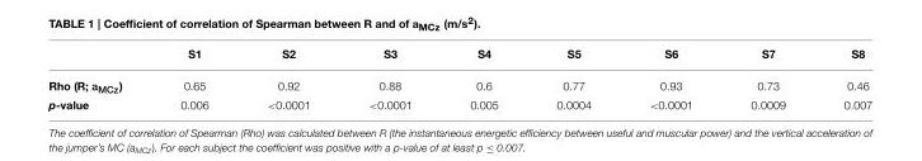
<table><thead><tr><td></td><td>S1</td><td>S2</td><td>S3</td><td>S4</td><td>S5</td><td>S6</td><td>S7</td><td>S8</td></tr></thead><tbody><tr><td>Rho (R; a<sub>MCz</sub>)</td><td>0.65</td><td>0.92</td><td>0.88</td><td>0.6</td><td>0.77</td><td>0.93</td><td>0.73</td><td>0.46</td></tr><tr><td>p-value</td><td>0.006</td><td>&lt;0.0001</td><td>&lt;0.0001</td><td>0.005</td><td>0.0004</td><td>&lt;0.0001</td><td>0.0009</td><td>0.007</td></tr></tbody></table>